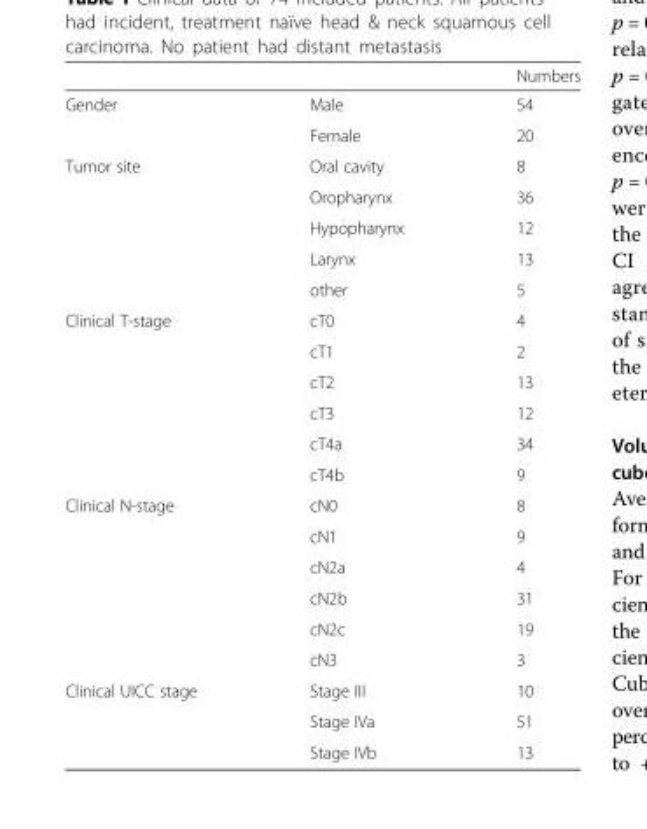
<table><thead><tr><td></td><td></td><td>Numbers</td></tr></thead><tbody><tr><td rowspan="2">Gender</td><td>Male</td><td>54</td></tr><tr><td>Female</td><td>20</td></tr><tr><td rowspan="5">Tumor site</td><td>Oral cavity</td><td>8</td></tr><tr><td>Oropharynx</td><td>36</td></tr><tr><td>Hypopharynx</td><td>12</td></tr><tr><td>Larynx</td><td>13</td></tr><tr><td>other</td><td>5</td></tr><tr><td rowspan="6">Clinical T-stage</td><td>cT0</td><td>4</td></tr><tr><td>cT1</td><td>2</td></tr><tr><td>cT2</td><td>13</td></tr><tr><td>cT3</td><td>12</td></tr><tr><td>cT4a</td><td>34</td></tr><tr><td>cT4b</td><td>9</td></tr><tr><td rowspan="6">Clinical N-stage</td><td>cN0</td><td>8</td></tr><tr><td>cN1</td><td>9</td></tr><tr><td>cN2a</td><td>4</td></tr><tr><td>cN2b</td><td>31</td></tr><tr><td>cN2c</td><td>19</td></tr><tr><td>cN3</td><td>3</td></tr><tr><td rowspan="3">Clinical UICC stage</td><td>Stage III</td><td>10</td></tr><tr><td>Stage IVa</td><td>51</td></tr><tr><td>Stage IVb</td><td>13</td></tr></tbody></table>